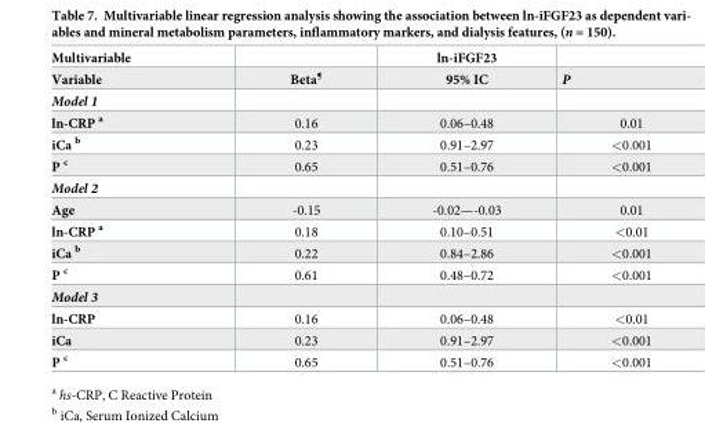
<table><thead><tr><td>Multivariable</td><td></td><td>ln-iFGF23</td><td></td></tr></thead><tbody><tr><td>Variable</td><td>Beta<sup>¶</sup></td><td>95% IC</td><td>P</td></tr><tr><td colspan="4">Model 1</td></tr><tr><td>ln-CRP <sup>a</sup></td><td>0.16</td><td>0.06–0.48</td><td>0.01</td></tr><tr><td>iCa <sup>b</sup></td><td>0.23</td><td>0.91–2.97</td><td>&lt;0.001</td></tr><tr><td>P <sup>c</sup></td><td>0.65</td><td>0.51–0.76</td><td>&lt;0.001</td></tr><tr><td colspan="4">Model 2</td></tr><tr><td>Age</td><td>-0.15</td><td>-0.02—-0.03</td><td>0.01</td></tr><tr><td>ln-CRP <sup>a</sup></td><td>0.18</td><td>0.10–0.51</td><td>&lt;0.01</td></tr><tr><td>iCa <sup>b</sup></td><td>0.22</td><td>0.84–2.86</td><td>&lt;0.001</td></tr><tr><td>P <sup>c</sup></td><td>0.61</td><td>0.48–0.72</td><td>&lt;0.001</td></tr><tr><td colspan="4">Model 3</td></tr><tr><td>ln-CRP</td><td>0.16</td><td>0.06–0.48</td><td>&lt;0.01</td></tr><tr><td>iCa</td><td>0.23</td><td>0.91–2.97</td><td>&lt;0.001</td></tr><tr><td>P <sup>c</sup></td><td>0.65</td><td>0.51–0.76</td><td>&lt;0.001</td></tr></tbody></table>